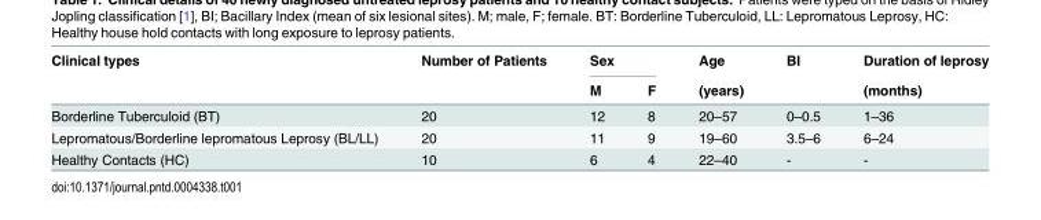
<table><thead><tr><td rowspan="2">Clinical types</td><td rowspan="2">Number of Patients</td><td colspan="2">Sex</td><td rowspan="2">Age (years)</td><td rowspan="2">BI</td><td rowspan="2">Duration of leprosy (months)</td></tr><tr><td>M</td><td>F</td></tr></thead><tbody><tr><td>Borderline Tuberculoid (BT)</td><td>20</td><td>12</td><td>8</td><td>20–57</td><td>0–0.5</td><td>1–36</td></tr><tr><td>Lepromatous/Borderline lepromatous Leprosy (BL/LL)</td><td>20</td><td>11</td><td>9</td><td>19–60</td><td>3.5–6</td><td>6–24</td></tr><tr><td>Healthy Contacts (HC)</td><td>10</td><td>6</td><td>4</td><td>22–40</td><td>-</td><td>-</td></tr></tbody></table>